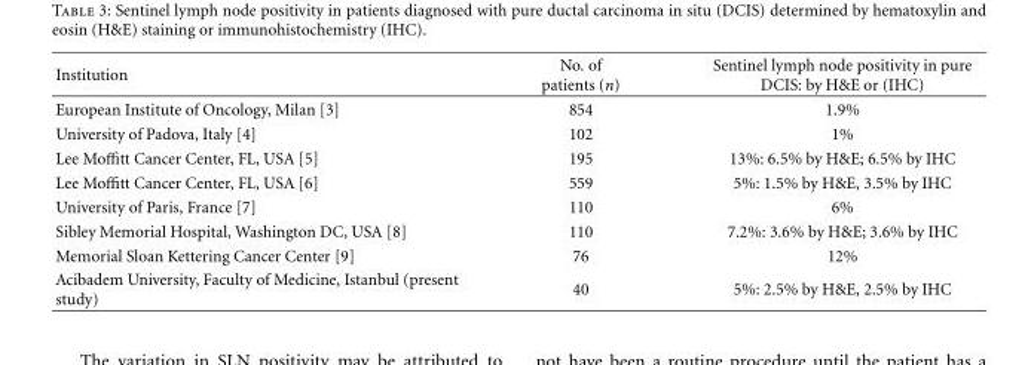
<table><thead><tr><td>Institution</td><td>No. of patients (n)</td><td>Sentinel lymph node positivity in pure DCIS: by H&amp;E or (IHC)</td></tr></thead><tbody><tr><td>European Institute of Oncology, Milan [3]</td><td>854</td><td>1.9%</td></tr><tr><td>University of Padova, Italy [4]</td><td>102</td><td>1%</td></tr><tr><td>Lee Moffitt Cancer Center, FL, USA [5]</td><td>195</td><td>13%: 6.5% by H&amp;E; 6.5% by IHC</td></tr><tr><td>Lee Moffitt Cancer Center, FL, USA [6]</td><td>559</td><td>5%: 1.5% by H&amp;E, 3.5% by IHC</td></tr><tr><td>University of Paris, France [7]</td><td>110</td><td>6%</td></tr><tr><td>Sibley Memorial Hospital, Washington DC, USA [8]</td><td>110</td><td>7.2%: 3.6% by H&amp;E; 3.6% by IHC</td></tr><tr><td>Memorial Sloan Kettering Cancer Center [9]</td><td>76</td><td>12%</td></tr><tr><td>Acibadem University, Faculty of Medicine, Istanbul (present study)</td><td>40</td><td>5%: 2.5% by H&amp;E, 2.5% by IHC</td></tr></tbody></table>